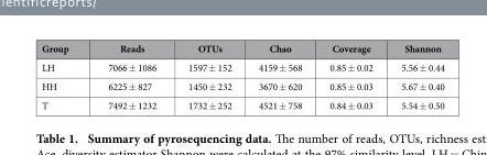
<table><thead><tr><td>Group</td><td>Reads</td><td>OTUs</td><td>Chao</td><td>Coverage</td><td>Shannon</td></tr></thead><tbody><tr><td>LH</td><td>7066 ± 1086</td><td>1597 ± 152</td><td>4159 ± 568</td><td>0.85 ± 0.02</td><td>5.56 ± 0.44</td></tr><tr><td>HH</td><td>6225 ± 827</td><td>1450 ± 232</td><td>3670 ± 620</td><td>0.85 ± 0.03</td><td>5.67 ± 0.40</td></tr><tr><td>T</td><td>7492 ± 1232</td><td>1732 ± 252</td><td>4521 ± 758</td><td>0.84 ± 0.03</td><td>5.54 ± 0.50</td></tr></tbody></table>